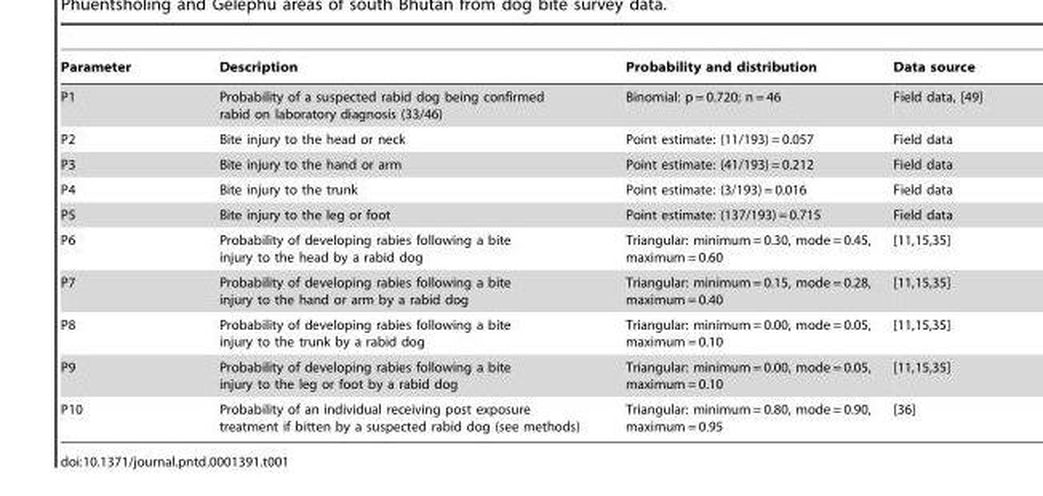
<table><thead><tr><td>Parameter</td><td>Description</td><td>Probability and distribution</td><td>Data source</td></tr></thead><tbody><tr><td>P1</td><td>Probability of a suspected rabid dog being confirmed rabid on laboratory diagnosis (33/46)</td><td>Binomial: p = 0.720; n = 46</td><td>Field data, [49]</td></tr><tr><td>P2</td><td>Bite injury to the head or neck</td><td>Point estimate: (11/193) = 0.057</td><td>Field data</td></tr><tr><td>P3</td><td>Bite injury to the hand or arm</td><td>Point estimate: (41/193) = 0.212</td><td>Field data</td></tr><tr><td>P4</td><td>Bite injury to the trunk</td><td>Point estimate: (3/193) = 0.016</td><td>Field data</td></tr><tr><td>P5</td><td>Bite injury to the leg or foot</td><td>Point estimate: (137/193) = 0.715</td><td>Field data</td></tr><tr><td>P6</td><td>Probability of developing rabies following a bite injury to the head by a rabid dog</td><td>Triangular: minimum = 0.30, mode = 0.45, maximum = 0.60</td><td>[11,15,35]</td></tr><tr><td>P7</td><td>Probability of developing rabies following a bite injury to the hand or arm by a rabid dog</td><td>Triangular: minimum = 0.15, mode = 0.28, maximum = 0.40</td><td>[11,15,35]</td></tr><tr><td>P8</td><td>Probability of developing rabies following a bite injury to the trunk by a rabid dog</td><td>Triangular: minimum = 0.00, mode = 0.05, maximum = 0.10</td><td>[11,15,35]</td></tr><tr><td>P9</td><td>Probability of developing rabies following a bite injury to the leg or foot by a rabid dog</td><td>Triangular: minimum = 0.00, mode = 0.05, maximum = 0.10</td><td>[11,15,35]</td></tr><tr><td>P10</td><td>Probability of an individual receiving post exposure treatment if bitten by a suspected rabid dog (see methods)</td><td>Triangular: minimum = 0.80, mode = 0.90, maximum = 0.95</td><td>[36]</td></tr></tbody></table>